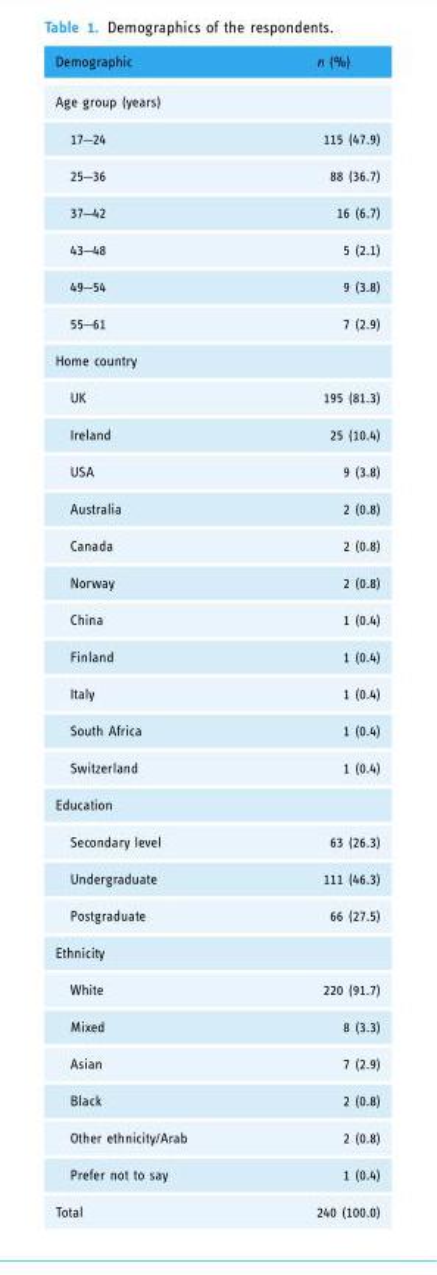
<table><thead><tr><td>Demographic</td><td>n (%)</td></tr></thead><tbody><tr><td colspan="2">Age group (years)</td></tr><tr><td>17–24</td><td>115 (47.9)</td></tr><tr><td>25–36</td><td>88 (36.7)</td></tr><tr><td>37–42</td><td>16 (6.7)</td></tr><tr><td>43–48</td><td>5 (2.1)</td></tr><tr><td>49–54</td><td>9 (3.8)</td></tr><tr><td>55–61</td><td>7 (2.9)</td></tr><tr><td colspan="2">Home country</td></tr><tr><td>UK</td><td>195 (81.3)</td></tr><tr><td>Ireland</td><td>25 (10.4)</td></tr><tr><td>USA</td><td>9 (3.8)</td></tr><tr><td>Australia</td><td>2 (0.8)</td></tr><tr><td>Canada</td><td>2 (0.8)</td></tr><tr><td>Norway</td><td>2 (0.8)</td></tr><tr><td>China</td><td>1 (0.4)</td></tr><tr><td>Finland</td><td>1 (0.4)</td></tr><tr><td>Italy</td><td>1 (0.4)</td></tr><tr><td>South Africa</td><td>1 (0.4)</td></tr><tr><td>Switzerland</td><td>1 (0.4)</td></tr><tr><td colspan="2">Education</td></tr><tr><td>Secondary level</td><td>63 (26.3)</td></tr><tr><td>Undergraduate</td><td>111 (46.3)</td></tr><tr><td>Postgraduate</td><td>66 (27.5)</td></tr><tr><td colspan="2">Ethnicity</td></tr><tr><td>White</td><td>220 (91.7)</td></tr><tr><td>Mixed</td><td>8 (3.3)</td></tr><tr><td>Asian</td><td>7 (2.9)</td></tr><tr><td>Black</td><td>2 (0.8)</td></tr><tr><td>Other ethnicity/Arab</td><td>2 (0.8)</td></tr><tr><td>Prefer not to say</td><td>1 (0.4)</td></tr><tr><td>Total</td><td>240 (100.0)</td></tr></tbody></table>